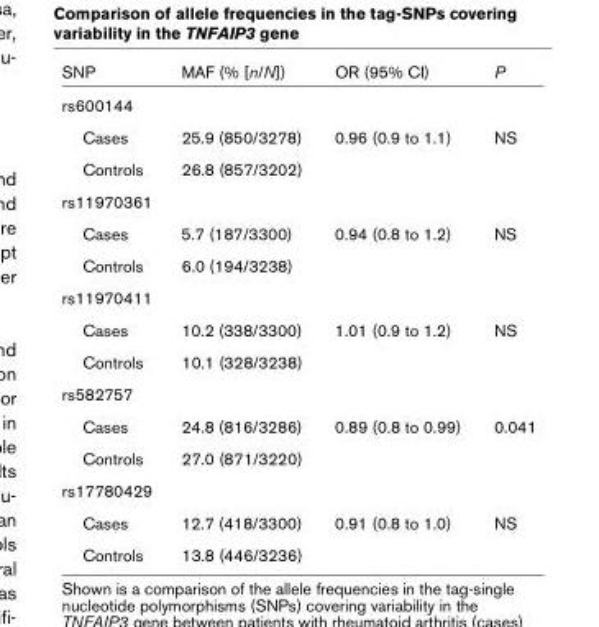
<table><thead><tr><td>SNP</td><td>MAF (% [n/N])</td><td>OR (95% CI)</td><td>P</td></tr></thead><tbody><tr><td colspan="4">rs600144</td></tr><tr><td>Cases</td><td>25.9 (850/3278)</td><td>0.96 (0.9 to 1.1)</td><td>NS</td></tr><tr><td>Controls</td><td>26.8 (857/3202)</td><td></td><td></td></tr><tr><td colspan="4">rs11970361</td></tr><tr><td>Cases</td><td>5.7 (187/3300)</td><td>0.94 (0.8 to 1.2)</td><td>NS</td></tr><tr><td>Controls</td><td>6.0 (194/3238)</td><td></td><td></td></tr><tr><td colspan="4">rs11970411</td></tr><tr><td>Cases</td><td>10.2 (338/3300)</td><td>1.01 (0.9 to 1.2)</td><td>NS</td></tr><tr><td>Controls</td><td>10.1 (328/3238)</td><td></td><td></td></tr><tr><td colspan="4">rs582757</td></tr><tr><td>Cases</td><td>24.8 (816/3286)</td><td>0.89 (0.8 to 0.99)</td><td>0.041</td></tr><tr><td>Controls</td><td>27.0 (871/3220)</td><td></td><td></td></tr><tr><td colspan="4">rs17780429</td></tr><tr><td>Cases</td><td>12.7 (418/3300)</td><td>0.91 (0.8 to 1.0)</td><td>NS</td></tr><tr><td>Controls</td><td>13.8 (446/3236)</td><td></td><td></td></tr></tbody></table>